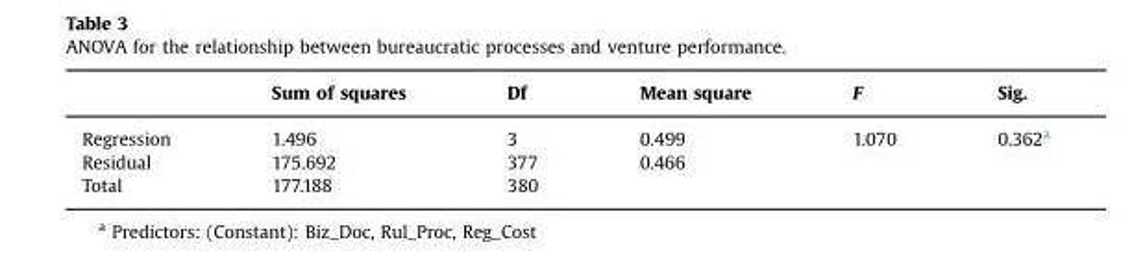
<table><thead><tr><td></td><td>Sum of squares</td><td>Df</td><td>Mean square</td><td>F</td><td>Sig.</td></tr></thead><tbody><tr><td>Regression</td><td>1.496</td><td>3</td><td>0.499</td><td>1.070</td><td>0.362<sup>a</sup></td></tr><tr><td>Residual</td><td>175.692</td><td>377</td><td>0.466</td><td></td><td></td></tr><tr><td>Total</td><td>177.188</td><td>380</td><td></td><td></td><td></td></tr></tbody></table>